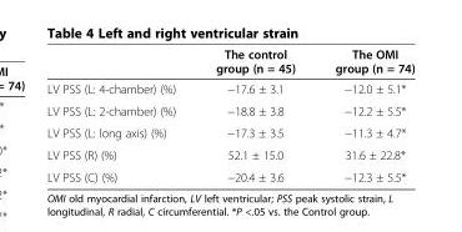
<table><thead><tr><td></td><td>The control group (n = 45)</td><td>The OMI group (n = 74)</td></tr></thead><tbody><tr><td>LV PSS (L: 4-chamber) (%)</td><td>−17.6 ± 3.1</td><td>−12.0 ± 5.1*</td></tr><tr><td>LV PSS (L: 2-chamber) (%)</td><td>−18.8 ± 3.8</td><td>−12.2 ± 5.5*</td></tr><tr><td>LV PSS (L: long axis) (%)</td><td>−17.3 ± 3.5</td><td>−11.3 ± 4.7*</td></tr><tr><td>LV PSS (R) (%)</td><td>52.1 ± 15.0</td><td>31.6 ± 22.8*</td></tr><tr><td>LV PSS (C) (%)</td><td>−20.4 ± 3.6</td><td>−12.3 ± 5.5*</td></tr></tbody></table>